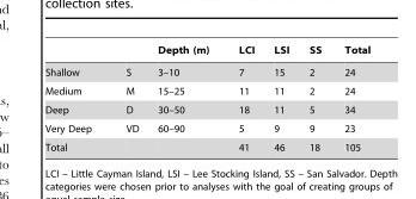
<table><thead><tr><td></td><td></td><td>Depth (m)</td><td>LCI</td><td>LSI</td><td>SS</td><td>Total</td></tr></thead><tbody><tr><td>Shallow</td><td>S</td><td>3–10</td><td>7</td><td>15</td><td>2</td><td>24</td></tr><tr><td>Medium</td><td>M</td><td>15–25</td><td>11</td><td>11</td><td>2</td><td>24</td></tr><tr><td>Deep</td><td>D</td><td>30–50</td><td>18</td><td>11</td><td>5</td><td>34</td></tr><tr><td>Very Deep</td><td>VD</td><td>60–90</td><td>5</td><td>9</td><td>9</td><td>23</td></tr><tr><td>Total</td><td></td><td></td><td>41</td><td>46</td><td>18</td><td>105</td></tr></tbody></table>